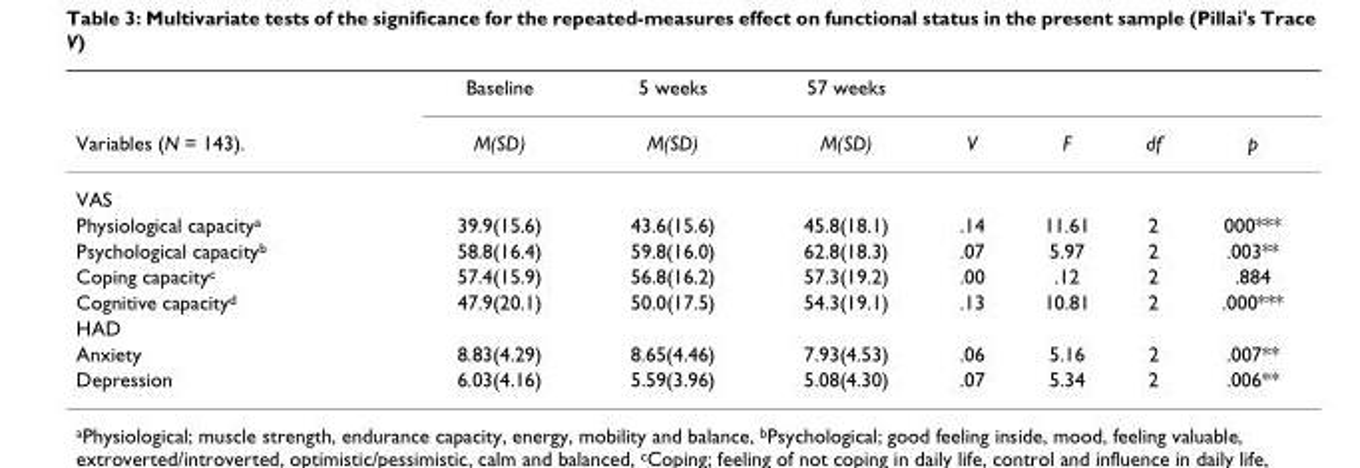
<table><thead><tr><td rowspan="2">Variables (N = 143).</td><td rowspan="2">Baseline M(SD)</td><td rowspan="2">5 weeks M(SD)</td><td rowspan="2">57 weeks M(SD)</td><td rowspan="2">V</td><td rowspan="2">F</td><td rowspan="2">df</td><td rowspan="2">p</td></tr><tr></tr></thead><tbody><tr><td colspan="8">VAS</td></tr><tr><td>Physiological capacity<sup>a</sup></td><td>39.9(15.6)</td><td>43.6(15.6)</td><td>45.8(18.1)</td><td>.14</td><td>11.61</td><td>2</td><td>000***</td></tr><tr><td>Psychological capacity<sup>b</sup></td><td>58.8(16.4)</td><td>59.8(16.0)</td><td>62.8(18.3)</td><td>.07</td><td>5.97</td><td>2</td><td>.003**</td></tr><tr><td>Coping capacity<sup>c</sup></td><td>57.4(15.9)</td><td>56.8(16.2)</td><td>57.3(19.2)</td><td>.00</td><td>.12</td><td>2</td><td>.884</td></tr><tr><td>Cognitive capacity<sup>d</sup></td><td>47.9(20.1)</td><td>50.0(17.5)</td><td>54.3(19.1)</td><td>.13</td><td>10.81</td><td>2</td><td>.000***</td></tr><tr><td colspan="8">HAD</td></tr><tr><td>Anxiety</td><td>8.83(4.29)</td><td>8.65(4.46)</td><td>7.93(4.53)</td><td>.06</td><td>5.16</td><td>2</td><td>.007**</td></tr><tr><td>Depression</td><td>6.03(4.16)</td><td>5.59(3.96)</td><td>5.08(4.30)</td><td>.07</td><td>5.34</td><td>2</td><td>.006**</td></tr></tbody></table>